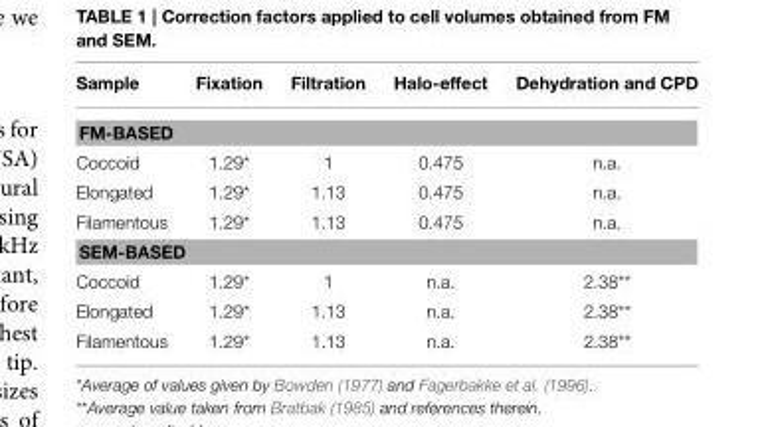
<table><thead><tr><td>Sample</td><td>Fixation</td><td>Filtration</td><td>Halo-effect</td><td>Dehydration and CPD</td></tr></thead><tbody><tr><td colspan="5">FM-BASED</td></tr><tr><td>Coccoid</td><td>1.29*</td><td>1</td><td>0.475</td><td>n.a.</td></tr><tr><td>Elongated</td><td>1.29*</td><td>1.13</td><td>0.475</td><td>n.a.</td></tr><tr><td>Filamentous</td><td>1.29*</td><td>1.13</td><td>0.475</td><td>n.a.</td></tr><tr><td colspan="5">SEM-BASED</td></tr><tr><td>Coccoid</td><td>1.29*</td><td>1</td><td>n.a.</td><td>2.38**</td></tr><tr><td>Elongated</td><td>1.29*</td><td>1.13</td><td>n.a.</td><td>2.38**</td></tr><tr><td>Filamentous</td><td>1.29*</td><td>1.13</td><td>n.a.</td><td>2.38**</td></tr></tbody></table>